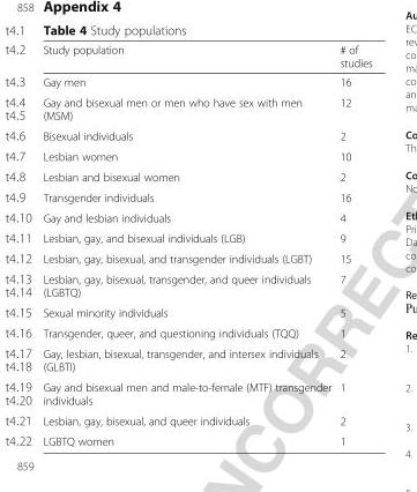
<table><thead><tr><td>Study population</td><td># of studies</td></tr></thead><tbody><tr><td>Gay men</td><td>16</td></tr><tr><td>Gay and bisexual men or men who have sex with men (MSM)</td><td>12</td></tr><tr><td>Bisexual individuals</td><td>2</td></tr><tr><td>Lesbian women</td><td>10</td></tr><tr><td>Lesbian and bisexual women</td><td>2</td></tr><tr><td>Transgender individuals</td><td>16</td></tr><tr><td>Gay and lesbian individuals</td><td>4</td></tr><tr><td>Lesbian, gay, and bisexual individuals (LGB)</td><td>9</td></tr><tr><td>Lesbian, gay, bisexual, and transgender individuals (LGBT)</td><td>15</td></tr><tr><td>Lesbian, gay, bisexual, transgender, and queer individuals (LGBTQ)</td><td>7</td></tr><tr><td>Sexual minority individuals</td><td>5</td></tr><tr><td>Transgender, queer, and questioning individuals (TQQ)</td><td>1</td></tr><tr><td>Gay, lesbian, bisexual, transgender, and intersex individuals (GLBTI)</td><td>2</td></tr><tr><td>Gay and bisexual men and male-to-female (MTF) transgender individuals</td><td>1</td></tr><tr><td>Lesbian, gay, bisexual, and queer individuals</td><td>2</td></tr><tr><td>LGBTQ women</td><td>1</td></tr></tbody></table>